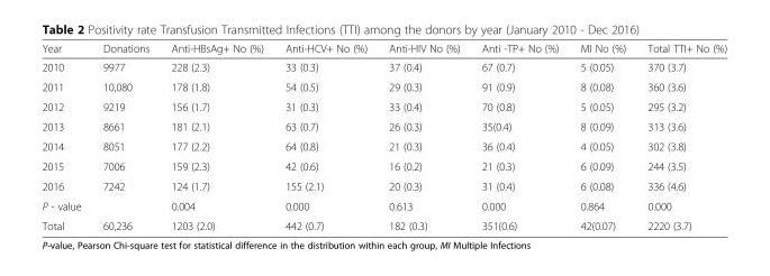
<table><thead><tr><td>Year</td><td>Donations</td><td>Anti-HBsAg+ No (%)</td><td>Anti-HCV+ No (%)</td><td>Anti-HIV No (%)</td><td>Anti -TP+ No (%)</td><td>MI No (%)</td><td>Total TTI+ No (%)</td></tr></thead><tbody><tr><td>2010</td><td>9977</td><td>228 (2.3)</td><td>33 (0.3)</td><td>37 (0.4)</td><td>67 (0.7)</td><td>5 (0.05)</td><td>370 (3.7)</td></tr><tr><td>2011</td><td>10,080</td><td>178 (1.8)</td><td>54 (0.5)</td><td>29 (0.3)</td><td>91 (0.9)</td><td>8 (0.08)</td><td>360 (3.6)</td></tr><tr><td>2012</td><td>9219</td><td>156 (1.7)</td><td>31 (0.3)</td><td>33 (0.4)</td><td>70 (0.8)</td><td>5 (0.05)</td><td>295 (3.2)</td></tr><tr><td>2013</td><td>8661</td><td>181 (2.1)</td><td>63 (0.7)</td><td>26 (0.3)</td><td>35(0.4)</td><td>8 (0.09)</td><td>313 (3.6)</td></tr><tr><td>2014</td><td>8051</td><td>177 (2.2)</td><td>64 (0.8)</td><td>21 (0.3)</td><td>36 (0.4)</td><td>4 (0.05)</td><td>302 (3.8)</td></tr><tr><td>2015</td><td>7006</td><td>159 (2.3)</td><td>42 (0.6)</td><td>16 (0.2)</td><td>21 (0.3)</td><td>6 (0.09)</td><td>244 (3.5)</td></tr><tr><td>2016</td><td>7242</td><td>124 (1.7)</td><td>155 (2.1)</td><td>20 (0.3)</td><td>31 (0.4)</td><td>6 (0.08)</td><td>336 (4.6)</td></tr><tr><td>P - value</td><td></td><td>0.004</td><td>0.000</td><td>0.613</td><td>0.000</td><td>0.864</td><td>0.000</td></tr><tr><td>Total</td><td>60,236</td><td>1203 (2.0)</td><td>442 (0.7)</td><td>182 (0.3)</td><td>351(0.6)</td><td>42(0.07)</td><td>2220 (3.7)</td></tr></tbody></table>